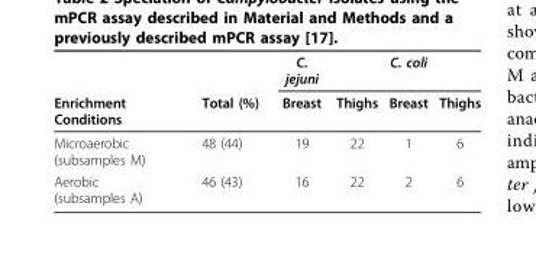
<table><thead><tr><td rowspan="2">Enrichment Conditions</td><td rowspan="2">Total (%)</td><td rowspan="2">C. jejuni Breast</td><td rowspan="2">Thighs</td><td rowspan="2">C. coli Breast</td><td rowspan="2">Thighs</td></tr><tr></tr></thead><tbody><tr><td>Microaerobic (subsamples M)</td><td>48 (44)</td><td>19</td><td>22</td><td>1</td><td>6</td></tr><tr><td>Aerobic (subsamples A)</td><td>46 (43)</td><td>16</td><td>22</td><td>2</td><td>6</td></tr></tbody></table>